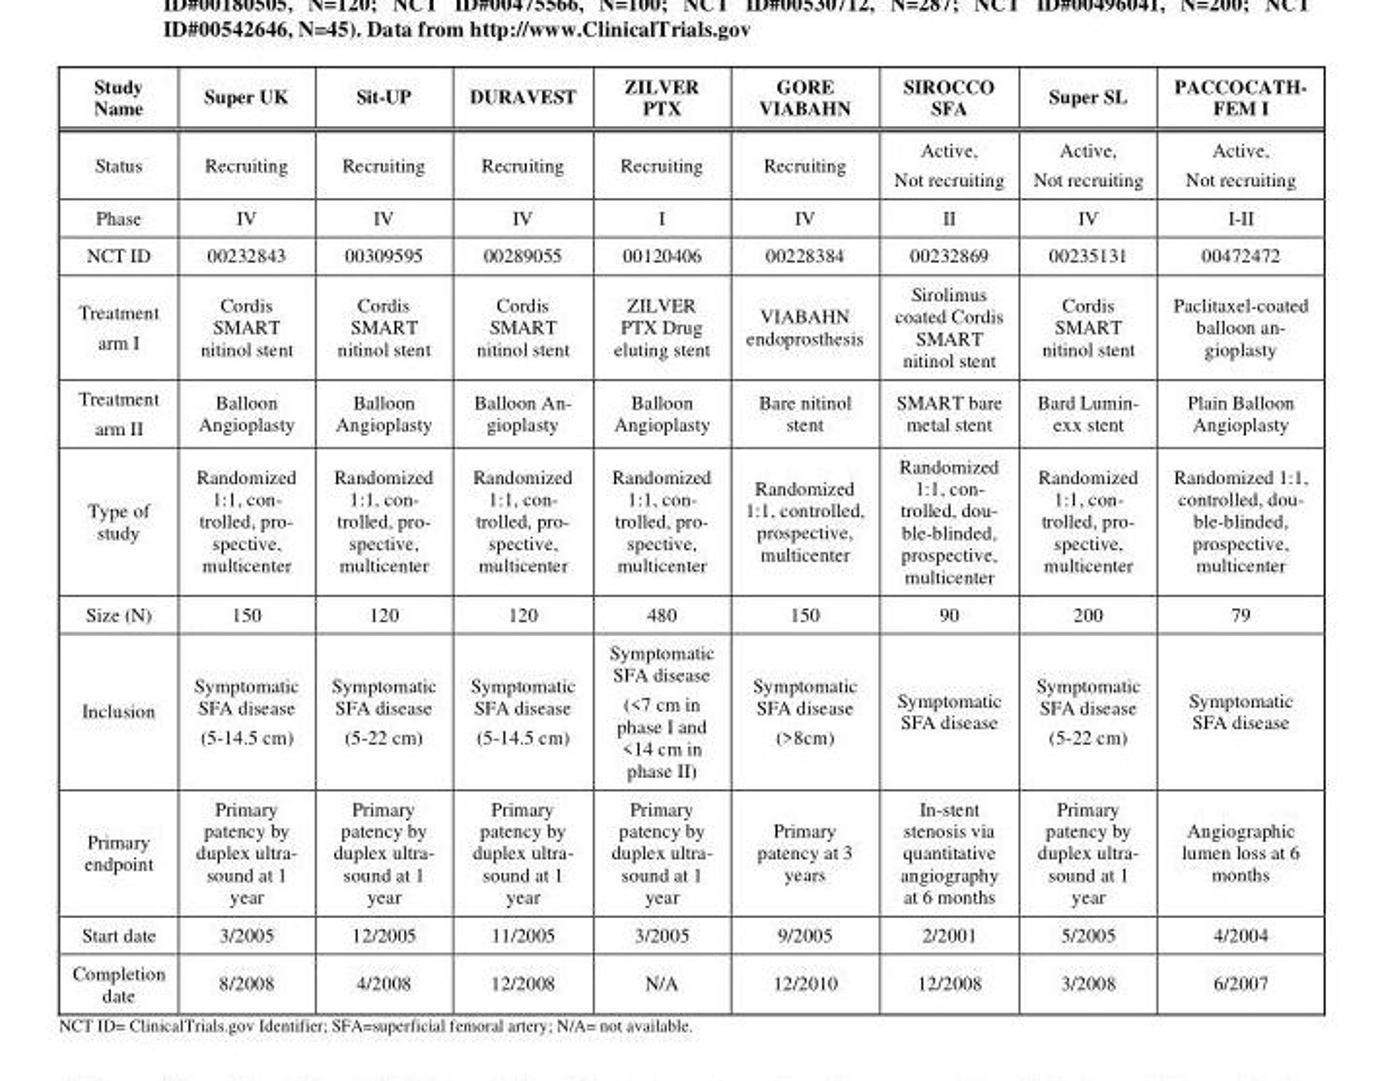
<table><thead><tr><td>Study Name</td><td>Super UK</td><td>Sit-UP</td><td>DURAVEST</td><td>ZILVER PTX</td><td>GORE VIABAHN</td><td>SIROCCO SFA</td><td>Super SL</td><td>PACCOCATH- FEM I</td></tr></thead><tbody><tr><td>Status</td><td>Recruiting</td><td>Recruiting</td><td>Recruiting</td><td>Recruiting</td><td>Recruiting</td><td>Active, Not recruiting</td><td>Active, Not recruiting</td><td>Active, Not recruiting</td></tr><tr><td>Phase</td><td>IV</td><td>IV</td><td>IV</td><td>I</td><td>IV</td><td>II</td><td>IV</td><td>I-II</td></tr><tr><td>NCT ID</td><td>00232843</td><td>00309595</td><td>00289055</td><td>00120406</td><td>00228384</td><td>00232869</td><td>00235131</td><td>00472472</td></tr><tr><td>Treatment arm I</td><td>Cordis SMART nitinol stent</td><td>Cordis SMART nitinol stent</td><td>Cordis SMART nitinol stent</td><td>ZILVER PTX Drug eluting stent</td><td>VIABAHN endoprosthesis</td><td>Sirolimus coated Cordis SMART nitinol stent</td><td>Cordis SMART nitinol stent</td><td>Paclitaxel-coated balloon an- gioplasty</td></tr><tr><td>Treatment arm II</td><td>Balloon Angioplasty</td><td>Balloon Angioplasty</td><td>Balloon An- gioplasty</td><td>Balloon Angioplasty</td><td>Bare nitinol stent</td><td>SMART bare metal stent</td><td>Bard Lumin- exx stent</td><td>Plain Balloon Angioplasty</td></tr><tr><td>Type of study</td><td>Randomized 1:1, con- trolled, pro- spective, multicenter</td><td>Randomized 1:1, con- trolled, pro- spective, multicenter</td><td>Randomized 1:1, con- trolled, pro- spective, multicenter</td><td>Randomized 1:1, con- trolled, pro- spective, multicenter</td><td>Randomized 1:1, controlled, prospective, multicenter</td><td>Randomized 1:1, con- trolled, dou- ble-blinded, prospective, multicenter</td><td>Randomized 1:1, con- trolled, pro- spective, multicenter</td><td>Randomized 1:1, controlled, dou- ble-blinded, prospective, multicenter</td></tr><tr><td>Size (N)</td><td>150</td><td>120</td><td>120</td><td>480</td><td>150</td><td>90</td><td>200</td><td>79</td></tr><tr><td>Inclusion</td><td>Symptomatic SFA disease (5-14.5 cm)</td><td>Symptomatic SFA disease (5-22 cm)</td><td>Symptomatic SFA disease (5-14.5 cm)</td><td>Symptomatic SFA disease (&lt;7 cm in phase I and &lt;14 cm in phase II)</td><td>Symptomatic SFA disease (&gt;8cm)</td><td>Symptomatic SFA disease</td><td>Symptomatic SFA disease (5-22 cm)</td><td>Symptomatic SFA disease</td></tr><tr><td>Primary endpoint</td><td>Primary patency by duplex ultra- sound at 1 year</td><td>Primary patency by duplex ultra- sound at 1 year</td><td>Primary patency by duplex ultra- sound at 1 year</td><td>Primary patency by duplex ultra- sound at 1 year</td><td>Primary patency at 3 years</td><td>In-stent stenosis via quantitative angiography at 6 months</td><td>Primary patency by duplex ultra- sound at 1 year</td><td>Angiographic lumen loss at 6 months</td></tr><tr><td>Start date</td><td>3/2005</td><td>12/2005</td><td>11/2005</td><td>3/2005</td><td>9/2005</td><td>2/2001</td><td>5/2005</td><td>4/2004</td></tr><tr><td>Completion date</td><td>8/2008</td><td>4/2008</td><td>12/2008</td><td>N/A</td><td>12/2010</td><td>12/2008</td><td>3/2008</td><td>6/2007</td></tr></tbody></table>